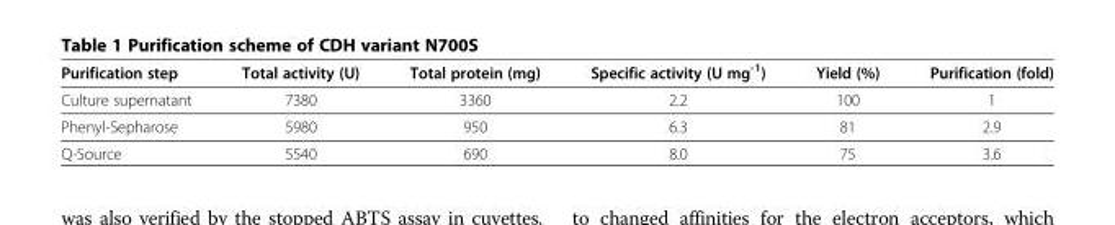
<table><thead><tr><td>Purification step</td><td>Total activity (U)</td><td>Total protein (mg)</td><td>Specific activity (U mg<sup>-1</sup>)</td><td>Yield (%)</td><td>Purification (fold)</td></tr></thead><tbody><tr><td>Culture supernatant</td><td>7380</td><td>3360</td><td>2.2</td><td>100</td><td>1</td></tr><tr><td>Phenyl-Sepharose</td><td>5980</td><td>950</td><td>6.3</td><td>81</td><td>2.9</td></tr><tr><td>Q-Source</td><td>5540</td><td>690</td><td>8.0</td><td>75</td><td>3.6</td></tr></tbody></table>